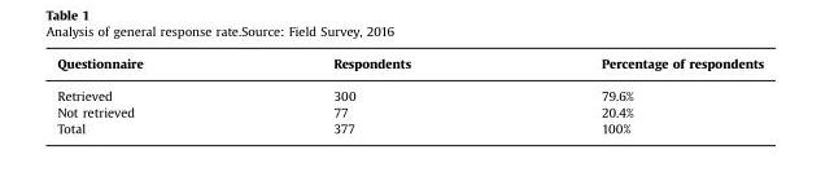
<table><thead><tr><td>Questionnaire</td><td>Respondents</td><td>Percentage of respondents</td></tr></thead><tbody><tr><td>Retrieved</td><td>300</td><td>79.6%</td></tr><tr><td>Not retrieved</td><td>77</td><td>20.4%</td></tr><tr><td>Total</td><td>377</td><td>100%</td></tr></tbody></table>